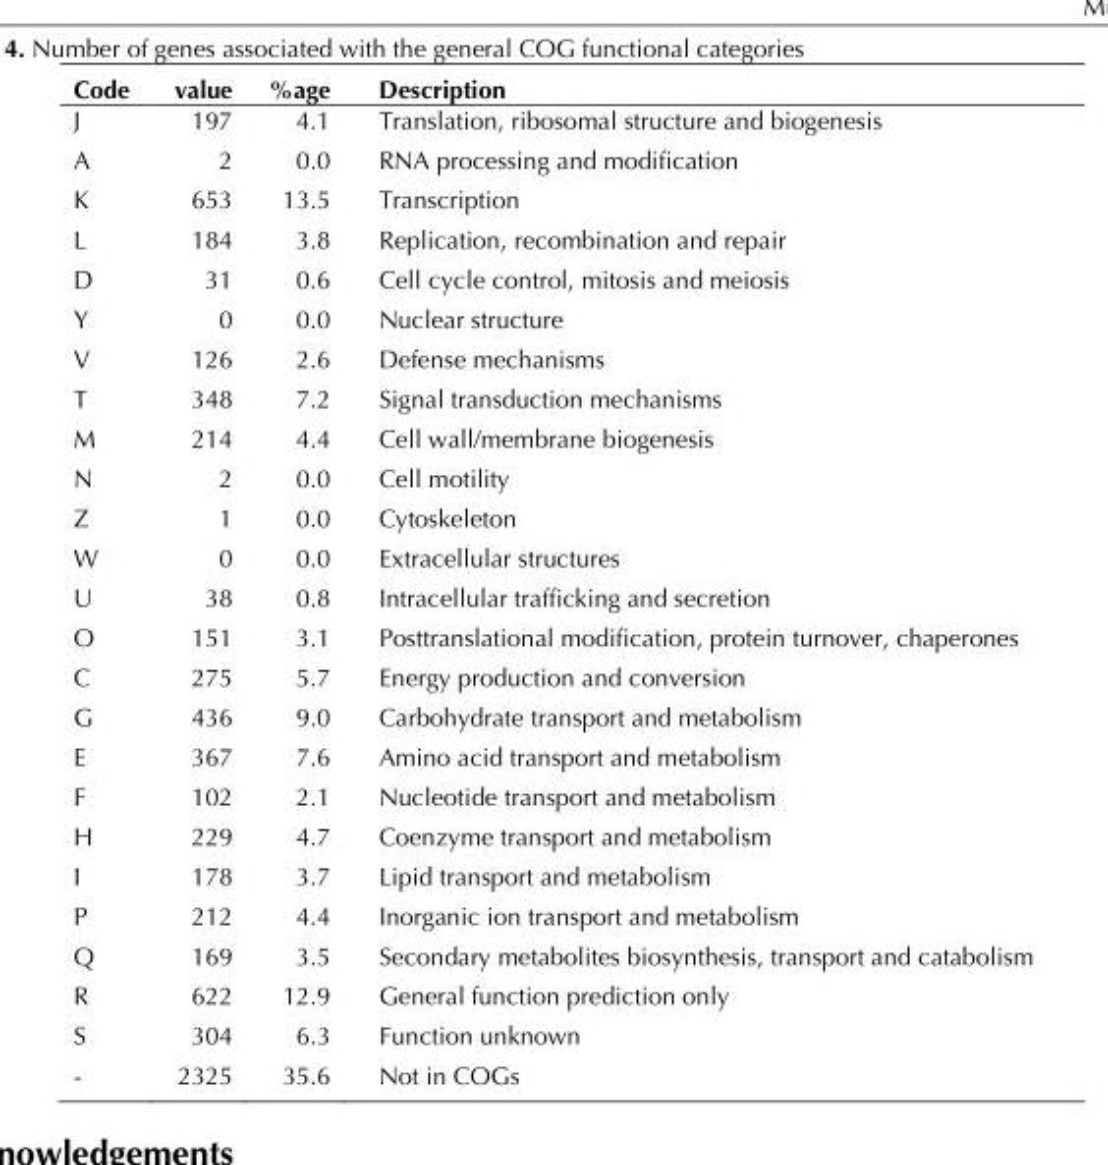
<table><thead><tr><td>Code</td><td>value</td><td>%age</td><td>Description</td></tr></thead><tbody><tr><td>J</td><td>197</td><td>4.1</td><td>Translation, ribosomal structure and biogenesis</td></tr><tr><td>A</td><td>2</td><td>0.0</td><td>RNA processing and modification</td></tr><tr><td>K</td><td>653</td><td>13.5</td><td>Transcription</td></tr><tr><td>L</td><td>184</td><td>3.8</td><td>Replication, recombination and repair</td></tr><tr><td>D</td><td>31</td><td>0.6</td><td>Cell cycle control, mitosis and meiosis</td></tr><tr><td>Y</td><td>0</td><td>0.0</td><td>Nuclear structure</td></tr><tr><td>V</td><td>126</td><td>2.6</td><td>Defense mechanisms</td></tr><tr><td>T</td><td>348</td><td>7.2</td><td>Signal transduction mechanisms</td></tr><tr><td>M</td><td>214</td><td>4.4</td><td>Cell wall/membrane biogenesis</td></tr><tr><td>N</td><td>2</td><td>0.0</td><td>Cell motility</td></tr><tr><td>Z</td><td>1</td><td>0.0</td><td>Cytoskeleton</td></tr><tr><td>W</td><td>0</td><td>0.0</td><td>Extracellular structures</td></tr><tr><td>U</td><td>38</td><td>0.8</td><td>Intracellular trafficking and secretion</td></tr><tr><td>O</td><td>151</td><td>3.1</td><td>Posttranslational modification, protein turnover, chaperones</td></tr><tr><td>C</td><td>275</td><td>5.7</td><td>Energy production and conversion</td></tr><tr><td>G</td><td>436</td><td>9.0</td><td>Carbohydrate transport and metabolism</td></tr><tr><td>E</td><td>367</td><td>7.6</td><td>Amino acid transport and metabolism</td></tr><tr><td>F</td><td>102</td><td>2.1</td><td>Nucleotide transport and metabolism</td></tr><tr><td>H</td><td>229</td><td>4.7</td><td>Coenzyme transport and metabolism</td></tr><tr><td>I</td><td>178</td><td>3.7</td><td>Lipid transport and metabolism</td></tr><tr><td>P</td><td>212</td><td>4.4</td><td>Inorganic ion transport and metabolism</td></tr><tr><td>Q</td><td>169</td><td>3.5</td><td>Secondary metabolites biosynthesis, transport and catabolism</td></tr><tr><td>R</td><td>622</td><td>12.9</td><td>General function prediction only</td></tr><tr><td>S</td><td>304</td><td>6.3</td><td>Function unknown</td></tr><tr><td>-</td><td>2325</td><td>35.6</td><td>Not in COGs</td></tr></tbody></table>